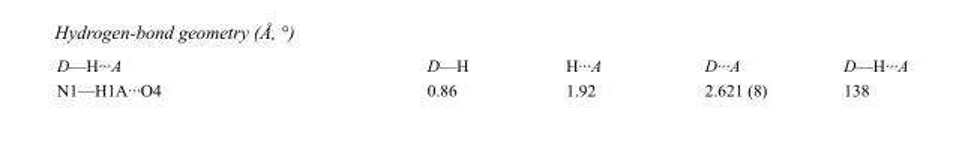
<table><tbody><tr><td>D—H···A</td><td>D—H</td><td>H···A</td><td>D···A</td><td>D—H···A</td></tr><tr><td>N1—H1A···O4</td><td>0.86</td><td>1.92</td><td>2.621 (8)</td><td>138</td></tr></tbody></table>